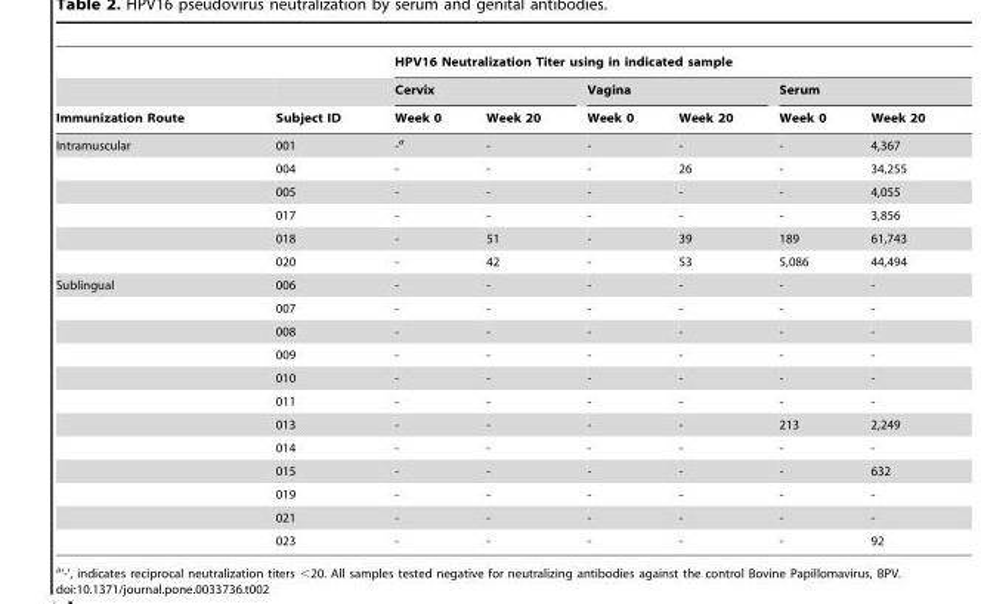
<table><thead><tr><td rowspan="3">Immunization Route</td><td rowspan="3">Subject ID</td><td colspan="6">HPV16 Neutralization Titer using in indicated sample</td></tr><tr><td colspan="2">Cervix</td><td colspan="2">Vagina</td><td colspan="2">Serum</td></tr><tr><td>Week 0</td><td>Week 20</td><td>Week 0</td><td>Week 20</td><td>Week 0</td><td>Week 20</td></tr></thead><tbody><tr><td rowspan="6">Intramuscular</td><td>001</td><td>-a</td><td>-</td><td>-</td><td>-</td><td>-</td><td>4,367</td></tr><tr><td>004</td><td>-</td><td>-</td><td>-</td><td>26</td><td>-</td><td>34,255</td></tr><tr><td>005</td><td>-</td><td>-</td><td>-</td><td>-</td><td>-</td><td>4,055</td></tr><tr><td>017</td><td>-</td><td>-</td><td>-</td><td>-</td><td>-</td><td>3,856</td></tr><tr><td>018</td><td>-</td><td>51</td><td>-</td><td>39</td><td>189</td><td>61,743</td></tr><tr><td>020</td><td>-</td><td>42</td><td>-</td><td>53</td><td>5,086</td><td>44,494</td></tr><tr><td rowspan="12">Sublingual</td><td>006</td><td>-</td><td>-</td><td>-</td><td>-</td><td>-</td><td>-</td></tr><tr><td>007</td><td>-</td><td>-</td><td>-</td><td>-</td><td>-</td><td>-</td></tr><tr><td>008</td><td>-</td><td>-</td><td>-</td><td>-</td><td>-</td><td>-</td></tr><tr><td>009</td><td>-</td><td>-</td><td>-</td><td>-</td><td>-</td><td>-</td></tr><tr><td>010</td><td>-</td><td>-</td><td>-</td><td>-</td><td>-</td><td>-</td></tr><tr><td>011</td><td>-</td><td>-</td><td>-</td><td>-</td><td>-</td><td>-</td></tr><tr><td>013</td><td>-</td><td>-</td><td>-</td><td>-</td><td>213</td><td>2,249</td></tr><tr><td>014</td><td>-</td><td>-</td><td>-</td><td>-</td><td>-</td><td>-</td></tr><tr><td>015</td><td>-</td><td>-</td><td>-</td><td>-</td><td>-</td><td>632</td></tr><tr><td>019</td><td>-</td><td>-</td><td>-</td><td>-</td><td>-</td><td>-</td></tr><tr><td>021</td><td>-</td><td>-</td><td>-</td><td>-</td><td>-</td><td>-</td></tr><tr><td>023</td><td>-</td><td>-</td><td>-</td><td>-</td><td>-</td><td>92</td></tr></tbody></table>